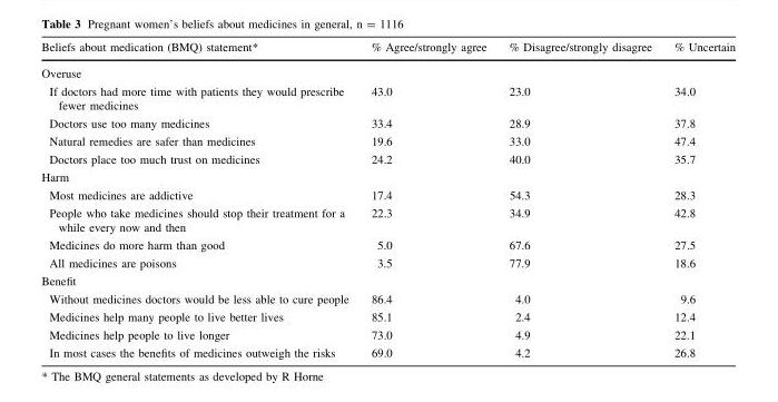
<table><thead><tr><td>Beliefs about medication (BMQ) statement*</td><td>% Agree/strongly agree</td><td>% Disagree/strongly disagree</td><td>% Uncertain</td></tr></thead><tbody><tr><td colspan="4">Overuse</td></tr><tr><td>If doctors had more time with patients they would prescribe fewer medicines</td><td>43.0</td><td>23.0</td><td>34.0</td></tr><tr><td>Doctors use too many medicines</td><td>33.4</td><td>28.9</td><td>37.8</td></tr><tr><td>Natural remedies are safer than medicines</td><td>19.6</td><td>33.0</td><td>47.4</td></tr><tr><td>Doctors place too much trust on medicines</td><td>24.2</td><td>40.0</td><td>35.7</td></tr><tr><td colspan="4">Harm</td></tr><tr><td>Most medicines are addictive</td><td>17.4</td><td>54.3</td><td>28.3</td></tr><tr><td>People who take medicines should stop their treatment for a while every now and then</td><td>22.3</td><td>34.9</td><td>42.8</td></tr><tr><td>Medicines do more harm than good</td><td>5.0</td><td>67.6</td><td>27.5</td></tr><tr><td>All medicines are poisons</td><td>3.5</td><td>77.9</td><td>18.6</td></tr><tr><td colspan="4">Benefit</td></tr><tr><td>Without medicines doctors would be less able to cure people</td><td>86.4</td><td>4.0</td><td>9.6</td></tr><tr><td>Medicines help many people to live better lives</td><td>85.1</td><td>2.4</td><td>12.4</td></tr><tr><td>Medicines help people to live longer</td><td>73.0</td><td>4.9</td><td>22.1</td></tr><tr><td>In most cases the benefits of medicines outweigh the risks</td><td>69.0</td><td>4.2</td><td>26.8</td></tr></tbody></table>